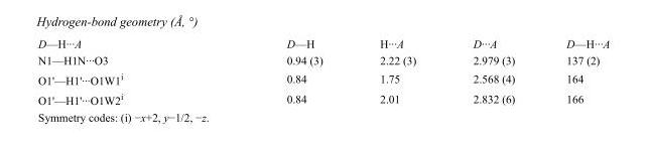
<table><tbody><tr><td>D—H···A</td><td>D—H</td><td>H···A</td><td>D···A</td><td>D—H···A</td></tr><tr><td>N1—H1N···O3</td><td>0.94 (3)</td><td>2.22 (3)</td><td>2.979 (3)</td><td>137 (2)</td></tr><tr><td>O1&#x27;—H1&#x27;···O1W1<sup>i</sup></td><td>0.84</td><td>1.75</td><td>2.568 (4)</td><td>164</td></tr><tr><td>O1&#x27;—H1&#x27;···O1W2<sup>i</sup></td><td>0.84</td><td>2.01</td><td>2.832 (6)</td><td>166</td></tr></tbody></table>